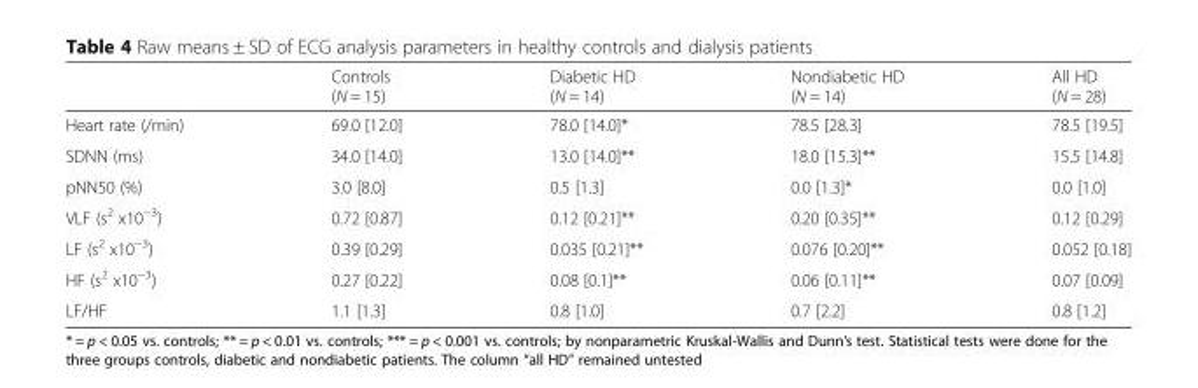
<table><thead><tr><td></td><td>Controls (N = 15)</td><td>Diabetic HD (N = 14)</td><td>Nondiabetic HD (N = 14)</td><td>All HD (N = 28)</td></tr></thead><tbody><tr><td>Heart rate (/min)</td><td>69.0 [12.0]</td><td>78.0 [14.0]*</td><td>78.5 [28.3]</td><td>78.5 [19.5]</td></tr><tr><td>SDNN (ms)</td><td>34.0 [14.0]</td><td>13.0 [14.0]**</td><td>18.0 [15.3]**</td><td>15.5 [14.8]</td></tr><tr><td>pNN50 (%)</td><td>3.0 [8.0]</td><td>0.5 [1.3]</td><td>0.0 [1.3]*</td><td>0.0 [1.0]</td></tr><tr><td>VLF (s<sup>2</sup> x10<sup>−3</sup>)</td><td>0.72 [0.87]</td><td>0.12 [0.21]**</td><td>0.20 [0.35]**</td><td>0.12 [0.29]</td></tr><tr><td>LF (s<sup>2</sup> x10<sup>−3</sup>)</td><td>0.39 [0.29]</td><td>0.035 [0.21]**</td><td>0.076 [0.20]**</td><td>0.052 [0.18]</td></tr><tr><td>HF (s<sup>2</sup> x10<sup>−3</sup>)</td><td>0.27 [0.22]</td><td>0.08 [0.1]**</td><td>0.06 [0.11]**</td><td>0.07 [0.09]</td></tr><tr><td>LF/HF</td><td>1.1 [1.3]</td><td>0.8 [1.0]</td><td>0.7 [2.2]</td><td>0.8 [1.2]</td></tr></tbody></table>